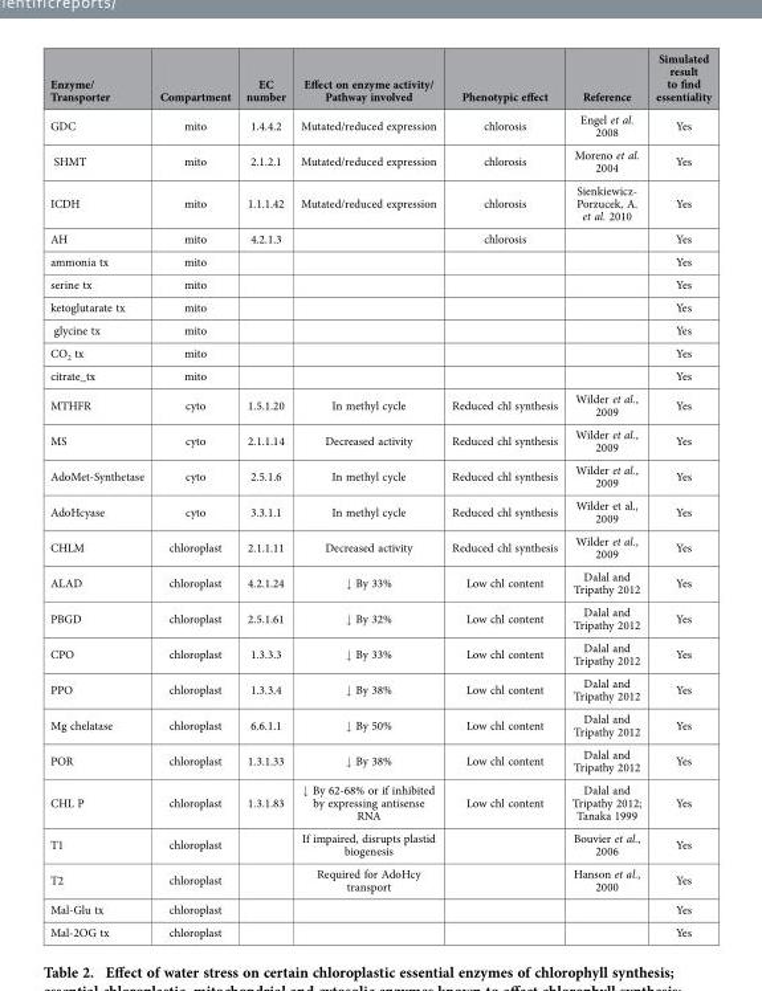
<table><thead><tr><td>Enzyme/ Transporter</td><td>Compartment</td><td>EC number</td><td>Effect on enzyme activity/ Pathway involved</td><td>Phenotypic effect</td><td>Reference</td><td>Simulated result to find essentiality</td></tr></thead><tbody><tr><td>GDC</td><td>mito</td><td>1.4.4.2</td><td>Mutated/reduced expression</td><td>chlorosis</td><td>Engel et al. 2008</td><td>Yes</td></tr><tr><td>SHMT</td><td>mito</td><td>2.1.2.1</td><td>Mutated/reduced expression</td><td>chlorosis</td><td>Moreno et al. 2004</td><td>Yes</td></tr><tr><td>ICDH</td><td>mito</td><td>1.1.1.42</td><td>Mutated/reduced expression</td><td>chlorosis</td><td>Sienkiewicz- Porzucek, A. et al. 2010</td><td>Yes</td></tr><tr><td>AH</td><td>mito</td><td>4.2.1.3</td><td></td><td>chlorosis</td><td></td><td>Yes</td></tr><tr><td>ammonia tx</td><td>mito</td><td></td><td></td><td></td><td></td><td>Yes</td></tr><tr><td>serine tx</td><td>mito</td><td></td><td></td><td></td><td></td><td>Yes</td></tr><tr><td>ketoglutarate tx</td><td>mito</td><td></td><td></td><td></td><td></td><td>Yes</td></tr><tr><td>glycine tx</td><td>mito</td><td></td><td></td><td></td><td></td><td>Yes</td></tr><tr><td>CO<sub>2</sub> tx</td><td>mito</td><td></td><td></td><td></td><td></td><td>Yes</td></tr><tr><td>citrate_tx</td><td>mito</td><td></td><td></td><td></td><td></td><td>Yes</td></tr><tr><td>MTHFR</td><td>cyto</td><td>1.5.1.20</td><td>In methyl cycle</td><td>Reduced chl synthesis</td><td>Wilder et al., 2009</td><td>Yes</td></tr><tr><td>MS</td><td>cyto</td><td>2.1.1.14</td><td>Decreased activity</td><td>Reduced chl synthesis</td><td>Wilder et al., 2009</td><td>Yes</td></tr><tr><td>AdoMet-Synthetase</td><td>cyto</td><td>2.5.1.6</td><td>In methyl cycle</td><td>Reduced chl synthesis</td><td>Wilder et al., 2009</td><td>Yes</td></tr><tr><td>AdoHcyase</td><td>cyto</td><td>3.3.1.1</td><td>In methyl cycle</td><td>Reduced chl synthesis</td><td>Wilder et al., 2009</td><td>Yes</td></tr><tr><td>CHLM</td><td>chloroplast</td><td>2.1.1.11</td><td>Decreased activity</td><td>Reduced chl synthesis</td><td>Wilder et al., 2009</td><td>Yes</td></tr><tr><td>ALAD</td><td>chloroplast</td><td>4.2.1.24</td><td>↓ By 33%</td><td>Low chl content</td><td>Dalal and Tripathy 2012</td><td>Yes</td></tr><tr><td>PBGD</td><td>chloroplast</td><td>2.5.1.61</td><td>↓ By 32%</td><td>Low chl content</td><td>Dalal and Tripathy 2012</td><td>Yes</td></tr><tr><td>CPO</td><td>chloroplast</td><td>1.3.3.3</td><td>↓ By 33%</td><td>Low chl content</td><td>Dalal and Tripathy 2012</td><td>Yes</td></tr><tr><td>PPO</td><td>chloroplast</td><td>1.3.3.4</td><td>↓ By 38%</td><td>Low chl content</td><td>Dalal and Tripathy 2012</td><td>Yes</td></tr><tr><td>Mg chelatase</td><td>chloroplast</td><td>6.6.1.1</td><td>↓ By 50%</td><td>Low chl content</td><td>Dalal and Tripathy 2012</td><td>Yes</td></tr><tr><td>POR</td><td>chloroplast</td><td>1.3.1.33</td><td>↓ By 38%</td><td>Low chl content</td><td>Dalal and Tripathy 2012</td><td>Yes</td></tr><tr><td>CHL P</td><td>chloroplast</td><td>1.3.1.83</td><td>↓ By 62-68% or if inhibited by expressing antisense RNA</td><td>Low chl content</td><td>Dalal and Tripathy 2012; Tanaka 1999</td><td>Yes</td></tr><tr><td>T1</td><td>chloroplast</td><td></td><td>If impaired, disrupts plastid biogenesis</td><td></td><td>Bouvier et al., 2006</td><td>Yes</td></tr><tr><td>T2</td><td>chloroplast</td><td></td><td>Required for AdoHcy transport</td><td></td><td>Hanson et al., 2000</td><td>Yes</td></tr><tr><td>Mal-Glu tx</td><td>chloroplast</td><td></td><td></td><td></td><td></td><td>Yes</td></tr><tr><td>Mal-2OG tx</td><td>chloroplast</td><td></td><td></td><td></td><td></td><td>Yes</td></tr></tbody></table>